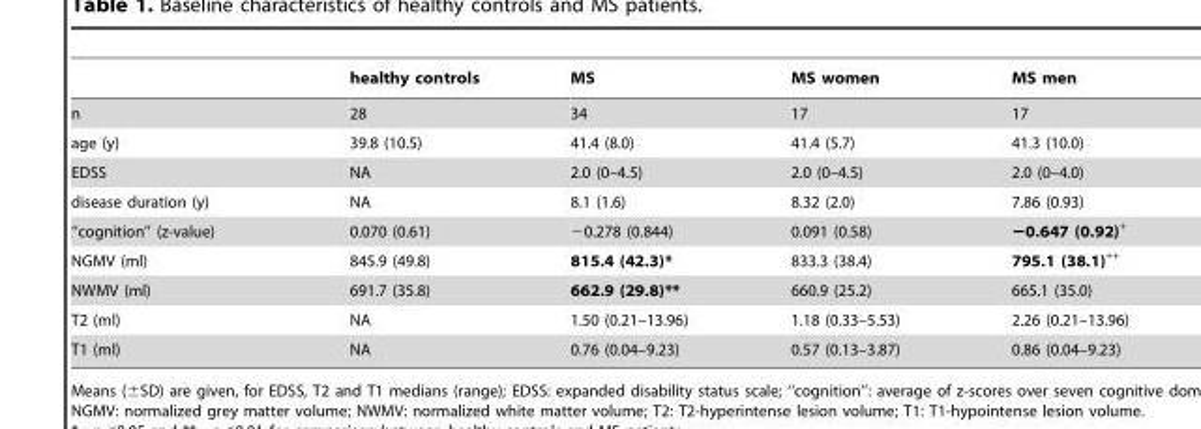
<table><thead><tr><td></td><td>healthy controls</td><td>MS</td><td>MS women</td><td>MS men</td></tr></thead><tbody><tr><td>n</td><td>28</td><td>34</td><td>17</td><td>17</td></tr><tr><td>age (y)</td><td>39.8 (10.5)</td><td>41.4 (8.0)</td><td>41.4 (5.7)</td><td>41.3 (10.0)</td></tr><tr><td>EDSS</td><td>NA</td><td>2.0 (0–4.5)</td><td>2.0 (0–4.5)</td><td>2.0 (0–4.0)</td></tr><tr><td>disease duration (y)</td><td>NA</td><td>8.1 (1.6)</td><td>8.32 (2.0)</td><td>7.86 (0.93)</td></tr><tr><td>‘‘cognition’’ (z-value)</td><td>0.070 (0.61)</td><td>−0.278 (0.844)</td><td>0.091 (0.58)</td><td>−0.647 (0.92)+</td></tr><tr><td>NGMV (ml)</td><td>845.9 (49.8)</td><td>815.4 (42.3)*</td><td>833.3 (38.4)</td><td>795.1 (38.1)<sup>++</sup></td></tr><tr><td>NWMV (ml)</td><td>691.7 (35.8)</td><td>662.9 (29.8)**</td><td>660.9 (25.2)</td><td>665.1 (35.0)</td></tr><tr><td>T2 (ml)</td><td>NA</td><td>1.50 (0.21–13.96)</td><td>1.18 (0.33–5.53)</td><td>2.26 (0.21–13.96)</td></tr><tr><td>T1 (ml)</td><td>NA</td><td>0.76 (0.04–9.23)</td><td>0.57 (0.13–3.87)</td><td>0.86 (0.04–9.23)</td></tr></tbody></table>